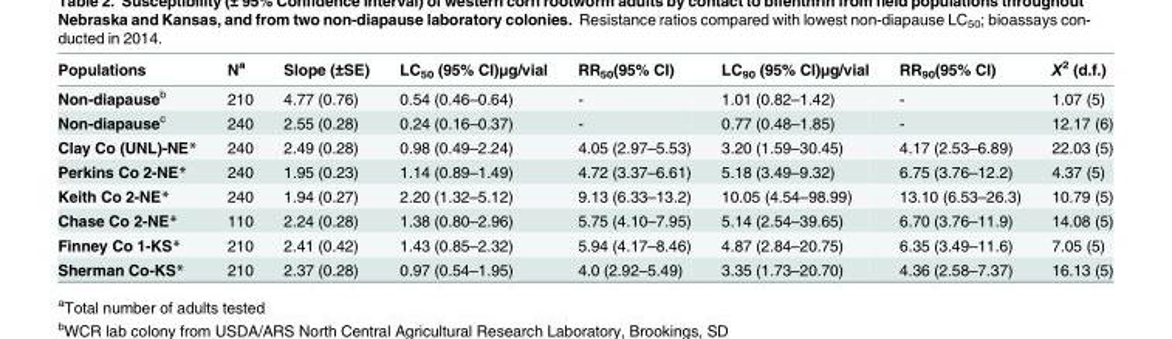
<table><thead><tr><td>Populations</td><td>N<sup>a</sup></td><td>Slope (±SE)</td><td>LC<sub>50</sub> (95% CI)μg/vial</td><td>RR<sub>50</sub>(95% CI)</td><td>LC<sub>90</sub> (95% CI)μg/vial</td><td>RR<sub>90</sub>(95% CI)</td><td>X<sup>2</sup> (d.f.)</td></tr></thead><tbody><tr><td>Non-diapause<sup>b</sup></td><td>210</td><td>4.77 (0.76)</td><td>0.54 (0.46–0.64)</td><td>-</td><td>1.01 (0.82–1.42)</td><td>-</td><td>1.07 (5)</td></tr><tr><td>Non-diapause<sup>c</sup></td><td>240</td><td>2.55 (0.28)</td><td>0.24 (0.16–0.37)</td><td>-</td><td>0.77 (0.48–1.85)</td><td>-</td><td>12.17 (6)</td></tr><tr><td>Clay Co (UNL)-NE*</td><td>240</td><td>2.49 (0.28)</td><td>0.98 (0.49–2.24)</td><td>4.05 (2.97–5.53)</td><td>3.20 (1.59–30.45)</td><td>4.17 (2.53–6.89)</td><td>22.03 (5)</td></tr><tr><td>Perkins Co 2-NE*</td><td>240</td><td>1.95 (0.23)</td><td>1.14 (0.89–1.49)</td><td>4.72 (3.37–6.61)</td><td>5.18 (3.49–9.32)</td><td>6.75 (3.76–12.2)</td><td>4.37 (5)</td></tr><tr><td>Keith Co 2-NE*</td><td>240</td><td>1.94 (0.27)</td><td>2.20 (1.32–5.12)</td><td>9.13 (6.33–13.2)</td><td>10.05 (4.54–98.99)</td><td>13.10 (6.53–26.3)</td><td>10.79 (5)</td></tr><tr><td>Chase Co 2-NE*</td><td>110</td><td>2.24 (0.28)</td><td>1.38 (0.80–2.96)</td><td>5.75 (4.10–7.95)</td><td>5.14 (2.54–39.65)</td><td>6.70 (3.76–11.9)</td><td>14.08 (5)</td></tr><tr><td>Finney Co 1-KS*</td><td>210</td><td>2.41 (0.42)</td><td>1.43 (0.85–2.32)</td><td>5.94 (4.17–8.46)</td><td>4.87 (2.84–20.75)</td><td>6.35 (3.49–11.6)</td><td>7.05 (5)</td></tr><tr><td>Sherman Co-KS*</td><td>210</td><td>2.37 (0.28)</td><td>0.97 (0.54–1.95)</td><td>4.0 (2.92–5.49)</td><td>3.35 (1.73–20.70)</td><td>4.36 (2.58–7.37)</td><td>16.13 (5)</td></tr></tbody></table>